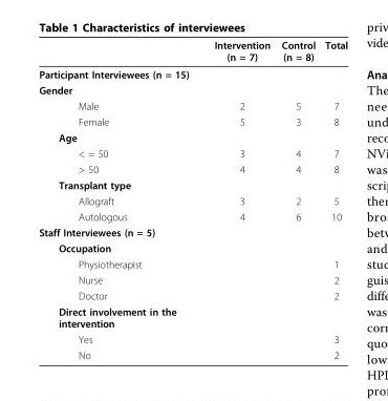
<table><thead><tr><td></td><td>Intervention (n = 7)</td><td>Control (n = 8)</td><td>Total</td></tr></thead><tbody><tr><td colspan="4">Participant Interviewees (n = 15)</td></tr><tr><td colspan="4">Gender</td></tr><tr><td>Male</td><td>2</td><td>5</td><td>7</td></tr><tr><td>Female</td><td>5</td><td>3</td><td>8</td></tr><tr><td colspan="4">Age</td></tr><tr><td>&lt; = 50</td><td>3</td><td>4</td><td>7</td></tr><tr><td>&gt; 50</td><td>4</td><td>4</td><td>8</td></tr><tr><td colspan="4">Transplant type</td></tr><tr><td>Allograft</td><td>3</td><td>2</td><td>5</td></tr><tr><td>Autologous</td><td>4</td><td>6</td><td>10</td></tr><tr><td colspan="4">Staff Interviewees (n = 5)</td></tr><tr><td colspan="4">Occupation</td></tr><tr><td>Physiotherapist</td><td></td><td></td><td>1</td></tr><tr><td>Nurse</td><td></td><td></td><td>2</td></tr><tr><td>Doctor</td><td></td><td></td><td>2</td></tr><tr><td colspan="4">Direct involvement in the intervention</td></tr><tr><td>Yes</td><td></td><td></td><td>3</td></tr><tr><td>No</td><td></td><td></td><td>2</td></tr></tbody></table>